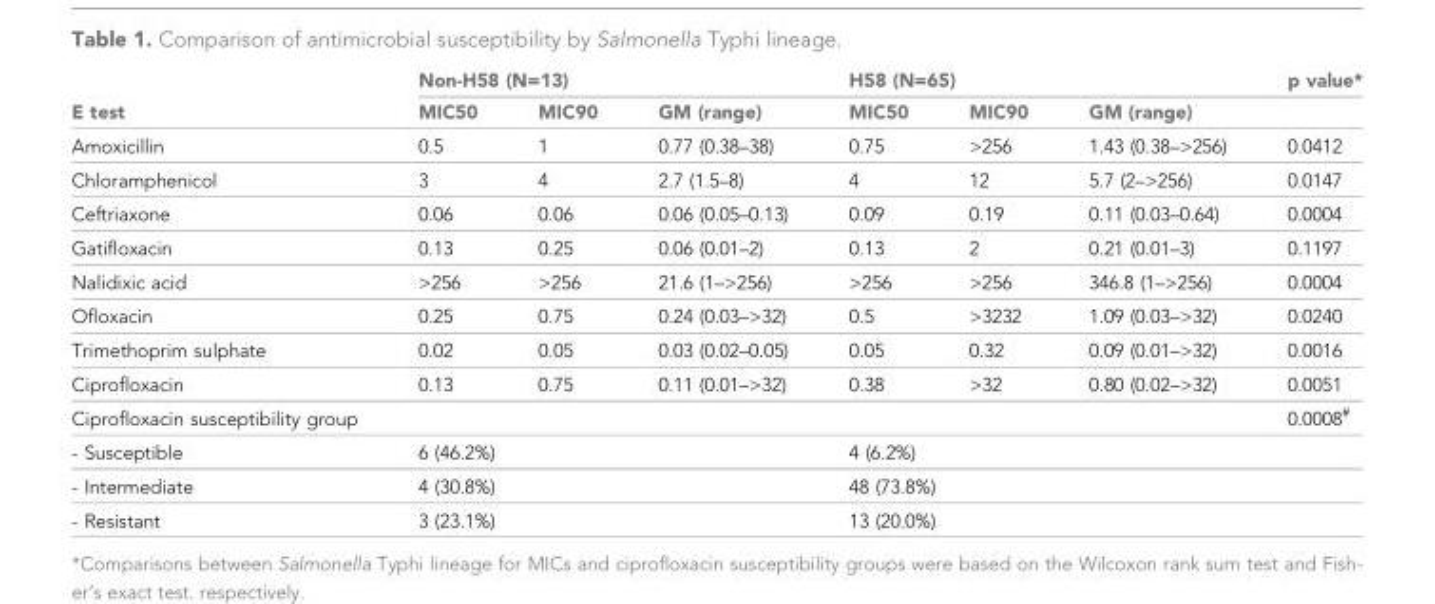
<table><thead><tr><td rowspan="2">E test</td><td colspan="3">Non-H58 (N=13)</td><td colspan="3">H58 (N=65)</td><td rowspan="2">p value*</td></tr><tr><td>MIC50</td><td>MIC90</td><td>GM (range)</td><td>MIC50</td><td>MIC90</td><td>GM (range)</td></tr></thead><tbody><tr><td>Amoxicillin</td><td>0.5</td><td>1</td><td>0.77 (0.38–38)</td><td>0.75</td><td>&gt;256</td><td>1.43 (0.38–&gt;256)</td><td>0.0412</td></tr><tr><td>Chloramphenicol</td><td>3</td><td>4</td><td>2.7 (1.5–8)</td><td>4</td><td>12</td><td>5.7 (2–&gt;256)</td><td>0.0147</td></tr><tr><td>Ceftriaxone</td><td>0.06</td><td>0.06</td><td>0.06 (0.05–0.13)</td><td>0.09</td><td>0.19</td><td>0.11 (0.03–0.64)</td><td>0.0004</td></tr><tr><td>Gatifloxacin</td><td>0.13</td><td>0.25</td><td>0.06 (0.01–2)</td><td>0.13</td><td>2</td><td>0.21 (0.01–3)</td><td>0.1197</td></tr><tr><td>Nalidixic acid</td><td>&gt;256</td><td>&gt;256</td><td>21.6 (1–&gt;256)</td><td>&gt;256</td><td>&gt;256</td><td>346.8 (1–&gt;256)</td><td>0.0004</td></tr><tr><td>Ofloxacin</td><td>0.25</td><td>0.75</td><td>0.24 (0.03–&gt;32)</td><td>0.5</td><td>&gt;3232</td><td>1.09 (0.03–&gt;32)</td><td>0.0240</td></tr><tr><td>Trimethoprim sulphate</td><td>0.02</td><td>0.05</td><td>0.03 (0.02–0.05)</td><td>0.05</td><td>0.32</td><td>0.09 (0.01–&gt;32)</td><td>0.0016</td></tr><tr><td>Ciprofloxacin</td><td>0.13</td><td>0.75</td><td>0.11 (0.01–&gt;32)</td><td>0.38</td><td>&gt;32</td><td>0.80 (0.02–&gt;32)</td><td>0.0051</td></tr><tr><td>Ciprofloxacin susceptibility group</td><td colspan="3"></td><td colspan="3"></td><td>0.0008<sup>#</sup></td></tr><tr><td>- Susceptible</td><td colspan="3">6 (46.2%)</td><td colspan="3">4 (6.2%)</td><td></td></tr><tr><td>- Intermediate</td><td colspan="3">4 (30.8%)</td><td colspan="3">48 (73.8%)</td><td></td></tr><tr><td>- Resistant</td><td colspan="3">3 (23.1%)</td><td colspan="3">13 (20.0%)</td><td></td></tr></tbody></table>